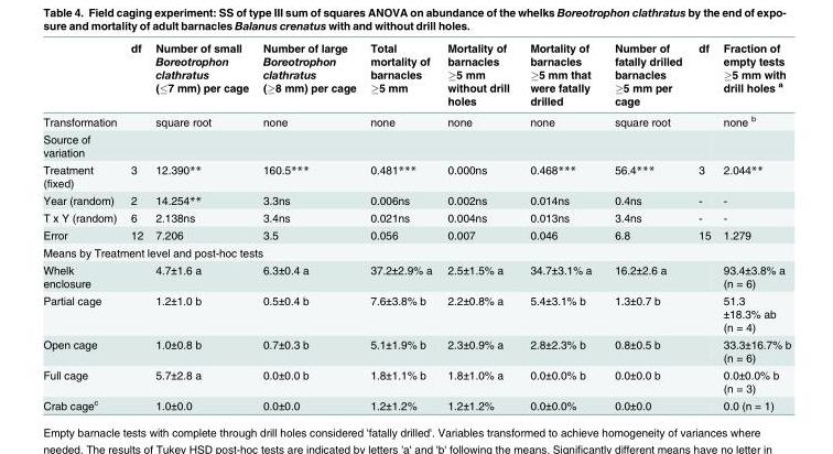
<table><thead><tr><td></td><td>df</td><td>Number of small Boreotrophon clathratus (≤7 mm) per cage</td><td>Number of large Boreotrophon clathratus (≥8 mm) per cage</td><td>Total mortality of barnacles ≥5 mm</td><td>Mortality of barnacles ≥5 mm without drill holes</td><td>Mortality of barnacles ≥5 mm that were fatally drilled</td><td>Number of fatally drilled barnacles ≥5 mm per cage</td><td>df</td><td>Fraction of empty tests ≥5 mm with drill holes <sup>a</sup></td></tr></thead><tbody><tr><td>Transformation</td><td></td><td>square root</td><td>none</td><td>none</td><td>none</td><td>none</td><td>square root</td><td></td><td>none <sup>b</sup></td></tr><tr><td colspan="10">Source of variation</td></tr><tr><td>Treatment (fixed)</td><td>3</td><td>12.390**</td><td>160.5***</td><td>0.481***</td><td>0.000ns</td><td>0.468***</td><td>56.4***</td><td>3</td><td>2.044**</td></tr><tr><td>Year (random)</td><td>2</td><td>14.254**</td><td>3.3ns</td><td>0.006ns</td><td>0.002ns</td><td>0.014ns</td><td>0.4ns</td><td>-</td><td>-</td></tr><tr><td>T x Y (random)</td><td>6</td><td>2.138ns</td><td>3.4ns</td><td>0.021ns</td><td>0.004ns</td><td>0.013ns</td><td>3.4ns</td><td>-</td><td>-</td></tr><tr><td>Error</td><td>12</td><td>7.206</td><td>3.5</td><td>0.056</td><td>0.007</td><td>0.046</td><td>6.8</td><td>15</td><td>1.279</td></tr><tr><td colspan="10">Means by Treatment level and post-hoc tests</td></tr><tr><td>Whelk enclosure</td><td></td><td>4.7±1.6 a</td><td>6.3±0.4 a</td><td>37.2±2.9% a</td><td>2.5±1.5% a</td><td>34.7±3.1% a</td><td>16.2±2.6 a</td><td></td><td>93.4±3.8% a (n = 6)</td></tr><tr><td>Partial cage</td><td></td><td>1.2±1.0 b</td><td>0.5±0.4 b</td><td>7.6±3.8% b</td><td>2.2±0.8% a</td><td>5.4±3.1% b</td><td>1.3±0.7 b</td><td></td><td>51.3 ±18.3% ab (n = 4)</td></tr><tr><td>Open cage</td><td></td><td>1.0±0.8 b</td><td>0.7±0.3 b</td><td>5.1±1.9% b</td><td>2.3±0.9% a</td><td>2.8±2.3% b</td><td>0.8±0.5 b</td><td></td><td>33.3±16.7% b (n = 6)</td></tr><tr><td>Full cage</td><td></td><td>5.7±2.8 a</td><td>0.0±0.0 b</td><td>1.8±1.1% b</td><td>1.8±1.0% a</td><td>0.0±0.0% b</td><td>0.0±0.0 b</td><td></td><td>0.0±0.0% b (n = 3)</td></tr><tr><td>Crab cage<sup>c</sup></td><td></td><td>1.0±0.0</td><td>0.0±0.0</td><td>1.2±1.2%</td><td>1.2±1.2%</td><td>0.0±0.0%</td><td>0.0±0.0</td><td></td><td>0.0 (n = 1)</td></tr></tbody></table>